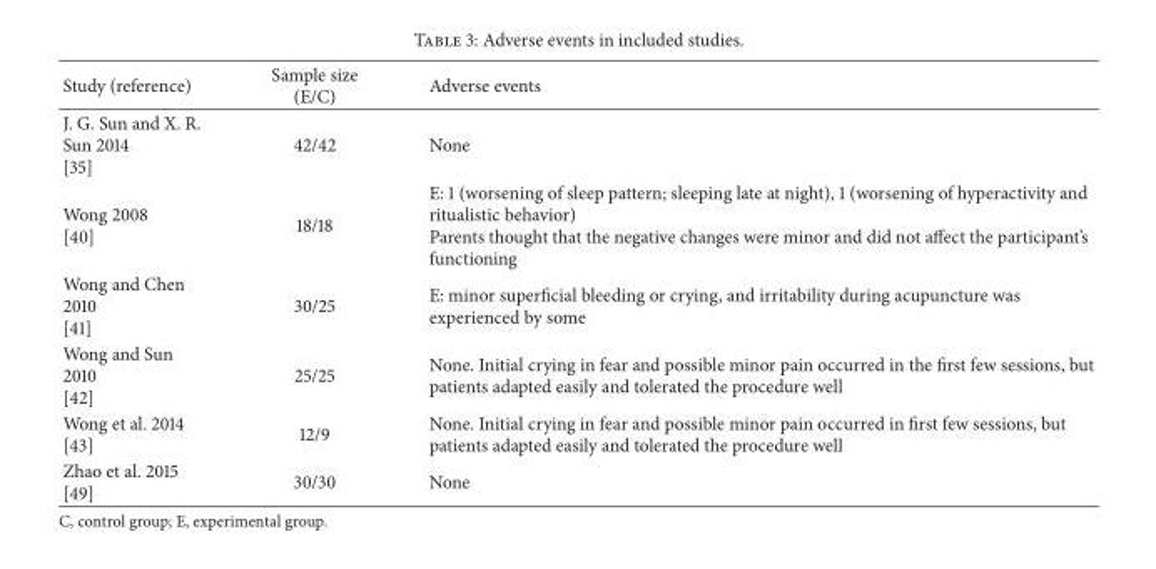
<table><thead><tr><td>Study (reference)</td><td>Sample size (E/C)</td><td>Adverse events</td></tr></thead><tbody><tr><td>J. G. Sun and X. R. Sun 2014 [35]</td><td>42/42</td><td>None</td></tr><tr><td>Wong 2008 [40]</td><td>18/18</td><td>E: 1 (worsening of sleep pattern; sleeping late at night), 1 (worsening of hyperactivity and ritualistic behavior) Parents thought that the negative changes were minor and did not affect the participant’s functioning</td></tr><tr><td>Wong and Chen 2010 [41]</td><td>30/25</td><td>E: minor superficial bleeding or crying, and irritability during acupuncture was experienced by some</td></tr><tr><td>Wong and Sun 2010 [42]</td><td>25/25</td><td>None. Initial crying in fear and possible minor pain occurred in the first few sessions, but patients adapted easily and tolerated the procedure well</td></tr><tr><td>Wong et al. 2014 [43]</td><td>12/9</td><td>None. Initial crying in fear and possible minor pain occurred in first few sessions, but patients adapted easily and tolerated the procedure well</td></tr><tr><td>Zhao et al. 2015 [49]</td><td>30/30</td><td>None</td></tr></tbody></table>